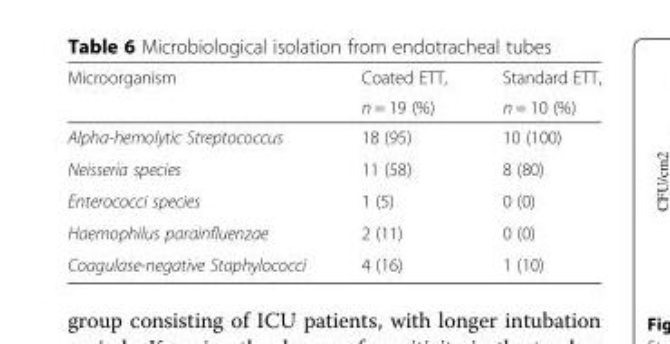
<table><thead><tr><td rowspan="2">Microorganism</td><td rowspan="2">Coated ETT, n = 19 (%)</td><td rowspan="2">Standard ETT, n = 10 (%)</td></tr><tr></tr></thead><tbody><tr><td>Alpha-hemolytic Streptococcus</td><td>18 (95)</td><td>10 (100)</td></tr><tr><td>Neisseria species</td><td>11 (58)</td><td>8 (80)</td></tr><tr><td>Enterococci species</td><td>1 (5)</td><td>0 (0)</td></tr><tr><td>Haemophilus parainfluenzae</td><td>2 (11)</td><td>0 (0)</td></tr><tr><td>Coagulase-negative Staphylococci</td><td>4 (16)</td><td>1 (10)</td></tr></tbody></table>